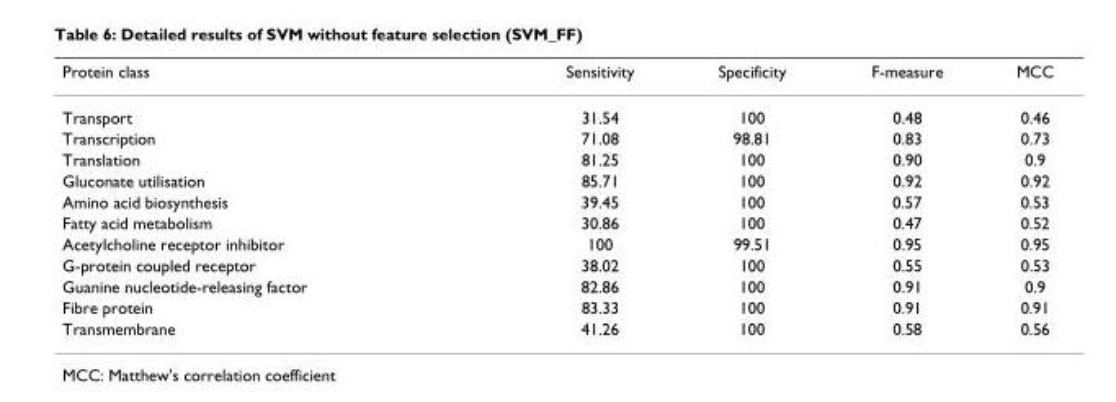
<table><thead><tr><td>Protein class</td><td>Sensitivity</td><td>Specificity</td><td>F-measure</td><td>MCC</td></tr></thead><tbody><tr><td>Transport</td><td>31.54</td><td>100</td><td>0.48</td><td>0.46</td></tr><tr><td>Transcription</td><td>71.08</td><td>98.81</td><td>0.83</td><td>0.73</td></tr><tr><td>Translation</td><td>81.25</td><td>100</td><td>0.90</td><td>0.9</td></tr><tr><td>Gluconate utilisation</td><td>85.71</td><td>100</td><td>0.92</td><td>0.92</td></tr><tr><td>Amino acid biosynthesis</td><td>39.45</td><td>100</td><td>0.57</td><td>0.53</td></tr><tr><td>Fatty acid metabolism</td><td>30.86</td><td>100</td><td>0.47</td><td>0.52</td></tr><tr><td>Acetylcholine receptor inhibitor</td><td>100</td><td>99.51</td><td>0.95</td><td>0.95</td></tr><tr><td>G-protein coupled receptor</td><td>38.02</td><td>100</td><td>0.55</td><td>0.53</td></tr><tr><td>Guanine nucleotide-releasing factor</td><td>82.86</td><td>100</td><td>0.91</td><td>0.9</td></tr><tr><td>Fibre protein</td><td>83.33</td><td>100</td><td>0.91</td><td>0.91</td></tr><tr><td>Transmembrane</td><td>41.26</td><td>100</td><td>0.58</td><td>0.56</td></tr></tbody></table>